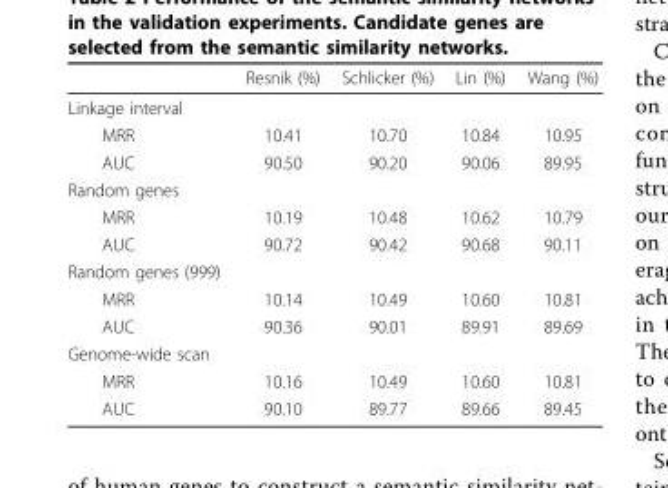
<table><thead><tr><td></td><td>Resnik (%)</td><td>Schlicker (%)</td><td>Lin (%)</td><td>Wang (%)</td></tr></thead><tbody><tr><td colspan="5">Linkage interval</td></tr><tr><td>MRR</td><td>10.41</td><td>10.70</td><td>10.84</td><td>10.95</td></tr><tr><td>AUC</td><td>90.50</td><td>90.20</td><td>90.06</td><td>89.95</td></tr><tr><td colspan="5">Random genes</td></tr><tr><td>MRR</td><td>10.19</td><td>10.48</td><td>10.62</td><td>10.79</td></tr><tr><td>AUC</td><td>90.72</td><td>90.42</td><td>90.68</td><td>90.11</td></tr><tr><td colspan="5">Random genes (999)</td></tr><tr><td>MRR</td><td>10.14</td><td>10.49</td><td>10.60</td><td>10.81</td></tr><tr><td>AUC</td><td>90.36</td><td>90.01</td><td>89.91</td><td>89.69</td></tr><tr><td colspan="5">Genome-wide scan</td></tr><tr><td>MRR</td><td>10.16</td><td>10.49</td><td>10.60</td><td>10.81</td></tr><tr><td>AUC</td><td>90.10</td><td>89.77</td><td>89.66</td><td>89.45</td></tr></tbody></table>